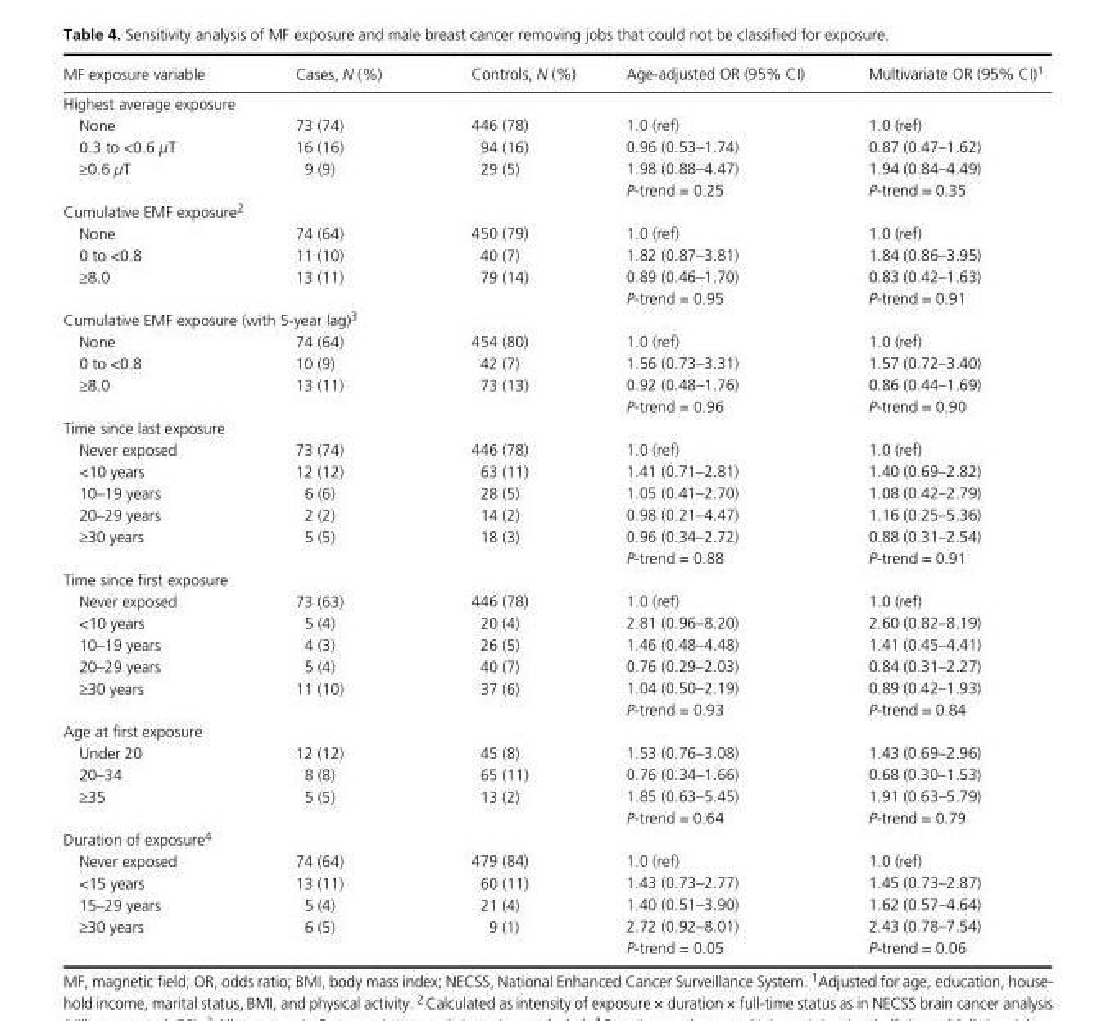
<table><thead><tr><td>MF exposure variable</td><td>Cases, N (%)</td><td>Controls, N (%)</td><td>Age- adjusted OR (95% CI)</td><td>Multivariate OR (95% CI)1</td></tr></thead><tbody><tr><td colspan="5">Highest average exposure</td></tr><tr><td>None</td><td>73 (74)</td><td>446 (78)</td><td>1.0 (ref)</td><td>1.0 (ref)</td></tr><tr><td>0.3 to &lt;0.6 μT</td><td>16 (16)</td><td>94 (16)</td><td>0.96 (0.53–1.74)</td><td>0.87 (0.47–1.62)</td></tr><tr><td rowspan="2">≥0.6 μT</td><td>9 (9)</td><td>29 (5)</td><td>1.98 (0.88–4.47)</td><td>1.94 (0.84–4.49)</td></tr><tr><td></td><td></td><td>P- trend = 0.25</td><td>P- trend = 0.35</td></tr><tr><td colspan="5">Cumulative EMF exposure2</td></tr><tr><td>None</td><td>74 (64)</td><td>450 (79)</td><td>1.0 (ref)</td><td>1.0 (ref)</td></tr><tr><td>0 to &lt;0.8</td><td>11 (10)</td><td>40 (7)</td><td>1.82 (0.87–3.81)</td><td>1.84 (0.86–3.95)</td></tr><tr><td rowspan="2">≥8.0</td><td>13 (11)</td><td>79 (14)</td><td>0.89 (0.46–1.70)</td><td>0.83 (0.42–1.63)</td></tr><tr><td></td><td></td><td>P- trend = 0.95</td><td>P- trend = 0.91</td></tr><tr><td colspan="5">Cumulative EMF exposure (with 5- year lag)3</td></tr><tr><td>None</td><td>74 (64)</td><td>454 (80)</td><td>1.0 (ref)</td><td>1.0 (ref)</td></tr><tr><td>0 to &lt;0.8</td><td>10 (9)</td><td>42 (7)</td><td>1.56 (0.73–3.31)</td><td>1.57 (0.72–3.40)</td></tr><tr><td rowspan="2">≥8.0</td><td>13 (11)</td><td>73 (13)</td><td>0.92 (0.48–1.76)</td><td>0.86 (0.44–1.69)</td></tr><tr><td></td><td></td><td>P- trend = 0.96</td><td>P- trend = 0.90</td></tr><tr><td colspan="5">Time since last exposure</td></tr><tr><td>Never exposed</td><td>73 (74)</td><td>446 (78)</td><td>1.0 (ref)</td><td>1.0 (ref)</td></tr><tr><td>&lt;10 years</td><td>12 (12)</td><td>63 (11)</td><td>1.41 (0.71–2.81)</td><td>1.40 (0.69–2.82)</td></tr><tr><td>10–19 years</td><td>6 (6)</td><td>28 (5)</td><td>1.05 (0.41–2.70)</td><td>1.08 (0.42–2.79)</td></tr><tr><td>20–29 years</td><td>2 (2)</td><td>14 (2)</td><td>0.98 (0.21–4.47)</td><td>1.16 (0.25–5.36)</td></tr><tr><td rowspan="2">≥30 years</td><td>5 (5)</td><td>18 (3)</td><td>0.96 (0.34–2.72)</td><td>0.88 (0.31–2.54)</td></tr><tr><td></td><td></td><td>P- trend = 0.88</td><td>P- trend = 0.91</td></tr><tr><td colspan="5">Time since first exposure</td></tr><tr><td>Never exposed</td><td>73 (63)</td><td>446 (78)</td><td>1.0 (ref)</td><td>1.0 (ref)</td></tr><tr><td>&lt;10 years</td><td>5 (4)</td><td>20 (4)</td><td>2.81 (0.96–8.20)</td><td>2.60 (0.82–8.19)</td></tr><tr><td>10–19 years</td><td>4 (3)</td><td>26 (5)</td><td>1.46 (0.48–4.48)</td><td>1.41 (0.45–4.41)</td></tr><tr><td>20–29 years</td><td>5 (4)</td><td>40 (7)</td><td>0.76 (0.29–2.03)</td><td>0.84 (0.31–2.27)</td></tr><tr><td rowspan="2">≥30 years</td><td>11 (10)</td><td>37 (6)</td><td>1.04 (0.50–2.19)</td><td>0.89 (0.42–1.93)</td></tr><tr><td></td><td></td><td>P- trend = 0.93</td><td>P- trend = 0.84</td></tr><tr><td colspan="5">Age at first exposure</td></tr><tr><td>Under 20</td><td>12 (12)</td><td>45 (8)</td><td>1.53 (0.76–3.08)</td><td>1.43 (0.69–2.96)</td></tr><tr><td>20–34</td><td>8 (8)</td><td>65 (11)</td><td>0.76 (0.34–1.66)</td><td>0.68 (0.30–1.53)</td></tr><tr><td rowspan="2">≥35</td><td>5 (5)</td><td>13 (2)</td><td>1.85 (0.63–5.45)</td><td>1.91 (0.63–5.79)</td></tr><tr><td></td><td></td><td>P- trend = 0.64</td><td>P- trend = 0.79</td></tr><tr><td colspan="5">Duration of exposure4</td></tr><tr><td>Never exposed</td><td>74 (64)</td><td>479 (84)</td><td>1.0 (ref)</td><td>1.0 (ref)</td></tr><tr><td>&lt;15 years</td><td>13 (11)</td><td>60 (11)</td><td>1.43 (0.73–2.77)</td><td>1.45 (0.73–2.87)</td></tr><tr><td>15–29 years</td><td>5 (4)</td><td>21 (4)</td><td>1.40 (0.51–3.90)</td><td>1.62 (0.57–4.64)</td></tr><tr><td rowspan="2">≥30 years</td><td>6 (5)</td><td>9 (1)</td><td>2.72 (0.92–8.01)</td><td>2.43 (0.78–7.54)</td></tr><tr><td></td><td></td><td>P- trend = 0.05</td><td>P- trend = 0.06</td></tr></tbody></table>